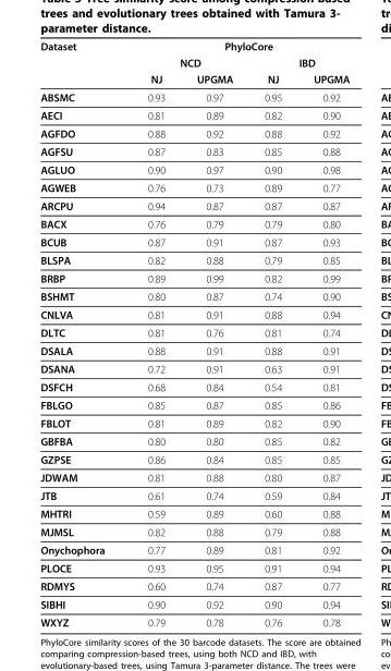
<table><thead><tr><td rowspan="3">Dataset</td><td colspan="4">PhyloCore</td></tr><tr><td colspan="2">NCD</td><td colspan="2">IBD</td></tr><tr><td>NJ</td><td>UPGMA</td><td>NJ</td><td>UPGMA</td></tr></thead><tbody><tr><td>ABSMC</td><td>0.93</td><td>0.97</td><td>0.95</td><td>0.92</td></tr><tr><td>AECI</td><td>0.81</td><td>0.89</td><td>0.82</td><td>0.90</td></tr><tr><td>AGFDO</td><td>0.88</td><td>0.92</td><td>0.88</td><td>0.92</td></tr><tr><td>AGFSU</td><td>0.87</td><td>0.83</td><td>0.85</td><td>0.88</td></tr><tr><td>AGLUO</td><td>0.90</td><td>0.97</td><td>0.90</td><td>0.98</td></tr><tr><td>AGWEB</td><td>0.76</td><td>0.73</td><td>0.89</td><td>0.77</td></tr><tr><td>ARCPU</td><td>0.94</td><td>0.87</td><td>0.87</td><td>0.87</td></tr><tr><td>BACX</td><td>0.76</td><td>0.79</td><td>0.79</td><td>0.80</td></tr><tr><td>BCUB</td><td>0.87</td><td>0.91</td><td>0.87</td><td>0.93</td></tr><tr><td>BLSPA</td><td>0.82</td><td>0.88</td><td>0.79</td><td>0.85</td></tr><tr><td>BRBP</td><td>0.89</td><td>0.99</td><td>0.82</td><td>0.99</td></tr><tr><td>BSHMT</td><td>0.80</td><td>0.87</td><td>0.74</td><td>0.90</td></tr><tr><td>CNLVA</td><td>0.81</td><td>0.91</td><td>0.88</td><td>0.94</td></tr><tr><td>DLTC</td><td>0.81</td><td>0.76</td><td>0.81</td><td>0.74</td></tr><tr><td>DSALA</td><td>0.88</td><td>0.91</td><td>0.88</td><td>0.91</td></tr><tr><td>DSANA</td><td>0.72</td><td>0.91</td><td>0.63</td><td>0.91</td></tr><tr><td>DSFCH</td><td>0.68</td><td>0.84</td><td>0.54</td><td>0.81</td></tr><tr><td>FBLGO</td><td>0.85</td><td>0.87</td><td>0.85</td><td>0.86</td></tr><tr><td>FBLOT</td><td>0.81</td><td>0.89</td><td>0.82</td><td>0.90</td></tr><tr><td>GBFBA</td><td>0.80</td><td>0.80</td><td>0.85</td><td>0.82</td></tr><tr><td>GZPSE</td><td>0.86</td><td>0.84</td><td>0.85</td><td>0.85</td></tr><tr><td>JDWAM</td><td>0.81</td><td>0.88</td><td>0.80</td><td>0.87</td></tr><tr><td>JTB</td><td>0.61</td><td>0.74</td><td>0.59</td><td>0.84</td></tr><tr><td>MHTRI</td><td>0.59</td><td>0.89</td><td>0.60</td><td>0.88</td></tr><tr><td>MJMSL</td><td>0.82</td><td>0.88</td><td>0.79</td><td>0.88</td></tr><tr><td>Onychophora</td><td>0.77</td><td>0.89</td><td>0.81</td><td>0.92</td></tr><tr><td>PLOCE</td><td>0.93</td><td>0.95</td><td>0.91</td><td>0.94</td></tr><tr><td>RDMYS</td><td>0.60</td><td>0.74</td><td>0.87</td><td>0.77</td></tr><tr><td>SIBHI</td><td>0.90</td><td>0.92</td><td>0.90</td><td>0.94</td></tr><tr><td>WXYZ</td><td>0.79</td><td>0.78</td><td>0.76</td><td>0.78</td></tr></tbody></table>